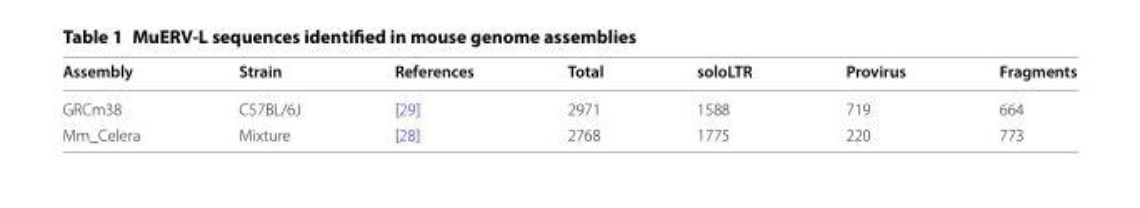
<table><thead><tr><td>Assembly</td><td>Strain</td><td>References</td><td>Total</td><td>soloLTR</td><td>Provirus</td><td>Fragments</td></tr></thead><tbody><tr><td>GRCm38</td><td>C57BL/6J</td><td>[29]</td><td>2971</td><td>1588</td><td>719</td><td>664</td></tr><tr><td>Mm_Celera</td><td>Mixture</td><td>[28]</td><td>2768</td><td>1775</td><td>220</td><td>773</td></tr></tbody></table>